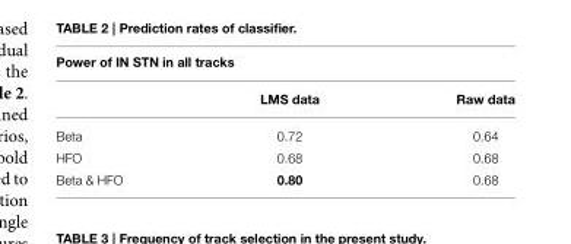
<table><thead><tr><td colspan="3">Power of IN STN in all tracks</td></tr><tr><td></td><td>LMS data</td><td>Raw data</td></tr></thead><tbody><tr><td>Beta</td><td>0.72</td><td>0.64</td></tr><tr><td>HFO</td><td>0.68</td><td>0.68</td></tr><tr><td>Beta &amp; HFO</td><td>0.80</td><td>0.68</td></tr></tbody></table>